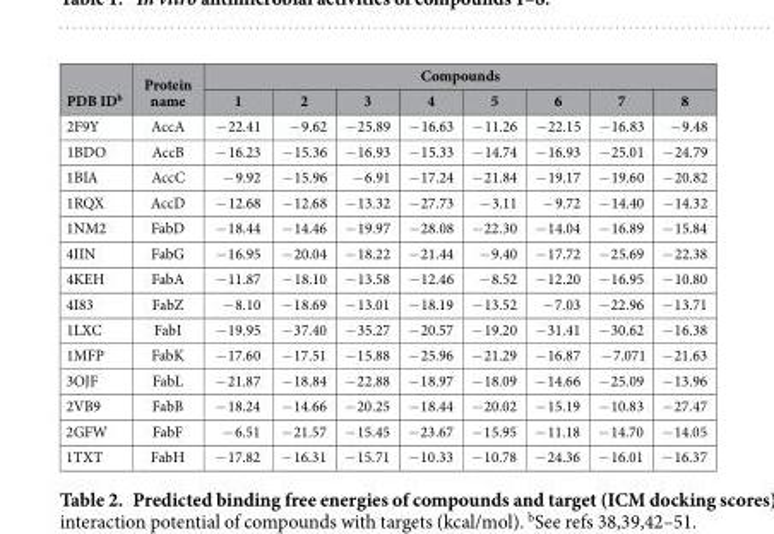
<table><thead><tr><td rowspan="2">PDB ID<sup>b</sup></td><td rowspan="2">Protein name</td><td colspan="8">Compounds</td></tr><tr><td>1</td><td>2</td><td>3</td><td>4</td><td>5</td><td>6</td><td>7</td><td>8</td></tr></thead><tbody><tr><td>2F9Y</td><td>AccA</td><td>− 22.41</td><td>− 9.62</td><td>− 25.89</td><td>− 16.63</td><td>− 11.26</td><td>− 22.15</td><td>− 16.83</td><td>− 9.48</td></tr><tr><td>1BDO</td><td>AccB</td><td>− 16.23</td><td>− 15.36</td><td>− 16.93</td><td>− 15.33</td><td>− 14.74</td><td>− 16.93</td><td>− 25.01</td><td>− 24.79</td></tr><tr><td>1BIA</td><td>AccC</td><td>− 9.92</td><td>− 15.96</td><td>− 6.91</td><td>− 17.24</td><td>− 21.84</td><td>− 19.17</td><td>− 19.60</td><td>− 20.82</td></tr><tr><td>1RQX</td><td>AccD</td><td>− 12.68</td><td>− 12.68</td><td>− 13.32</td><td>− 27.73</td><td>− 3.11</td><td>− 9.72</td><td>− 14.40</td><td>− 14.32</td></tr><tr><td>1NM2</td><td>FabD</td><td>− 18.44</td><td>− 14.46</td><td>− 19.97</td><td>− 28.08</td><td>− 22.30</td><td>− 14.04</td><td>− 16.89</td><td>− 15.84</td></tr><tr><td>4IIN</td><td>FabG</td><td>− 16.95</td><td>− 20.04</td><td>− 18.22</td><td>− 21.44</td><td>− 9.40</td><td>− 17.72</td><td>− 25.69</td><td>− 22.38</td></tr><tr><td>4KEH</td><td>FabA</td><td>− 11.87</td><td>− 18.10</td><td>− 13.58</td><td>− 12.46</td><td>− 8.52</td><td>− 12.20</td><td>− 16.95</td><td>− 10.80</td></tr><tr><td>4I83</td><td>FabZ</td><td>− 8.10</td><td>− 18.69</td><td>− 13.01</td><td>− 18.19</td><td>− 13.52</td><td>− 7.03</td><td>− 22.96</td><td>− 13.71</td></tr><tr><td>1LXC</td><td>FabI</td><td>− 19.95</td><td>− 37.40</td><td>− 35.27</td><td>− 20.57</td><td>− 19.20</td><td>− 31.41</td><td>− 30.62</td><td>− 16.38</td></tr><tr><td>1MFP</td><td>FabK</td><td>− 17.60</td><td>− 17.51</td><td>− 15.88</td><td>− 25.96</td><td>− 21.29</td><td>− 16.87</td><td>− 7.071</td><td>− 21.63</td></tr><tr><td>3OJF</td><td>FabL</td><td>− 21.87</td><td>− 18.84</td><td>− 22.88</td><td>− 18.97</td><td>− 18.09</td><td>− 14.66</td><td>− 25.09</td><td>− 13.96</td></tr><tr><td>2VB9</td><td>FabB</td><td>− 18.24</td><td>− 14.66</td><td>− 20.25</td><td>− 18.44</td><td>− 20.02</td><td>− 15.19</td><td>− 10.83</td><td>− 27.47</td></tr><tr><td>2GFW</td><td>FabF</td><td>− 6.51</td><td>− 21.57</td><td>− 15.45</td><td>− 23.67</td><td>− 15.95</td><td>− 11.18</td><td>− 14.70</td><td>− 14.05</td></tr><tr><td>1TXT</td><td>FabH</td><td>− 17.82</td><td>− 16.31</td><td>− 15.71</td><td>− 10.33</td><td>− 10.78</td><td>− 24.36</td><td>− 16.01</td><td>− 16.37</td></tr></tbody></table>